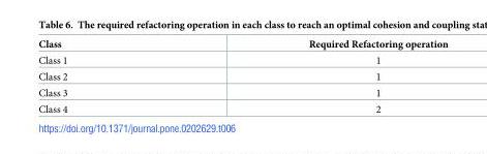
<table><thead><tr><td>Class</td><td>Required Refactoring operation</td></tr></thead><tbody><tr><td>Class 1</td><td>1</td></tr><tr><td>Class 2</td><td>1</td></tr><tr><td>Class 3</td><td>1</td></tr><tr><td>Class 4</td><td>2</td></tr></tbody></table>